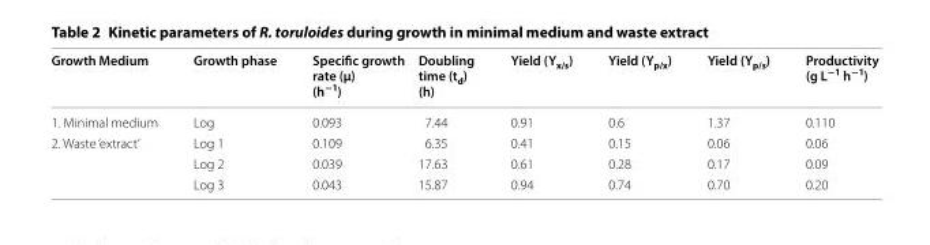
<table><thead><tr><td>Growth Medium</td><td>Growth phase</td><td>Specific growth rate (µ) (h<sup>−1</sup>)</td><td>Doubling time (t<sub>d</sub>) (h)</td><td>Yield (Y<sub>x/s</sub>)</td><td>Yield (Y<sub>p/x</sub>)</td><td>Yield (Y<sub>p/s</sub>)</td><td>Productivity (g L<sup>−1</sup> h<sup>−1</sup>)</td></tr></thead><tbody><tr><td>1. Minimal medium</td><td>Log</td><td>0.093</td><td>7.44</td><td>0.91</td><td>0.6</td><td>1.37</td><td>0.110</td></tr><tr><td rowspan="3">2. Waste ‘extract’</td><td>Log 1</td><td>0.109</td><td>6.35</td><td>0.41</td><td>0.15</td><td>0.06</td><td>0.06</td></tr><tr><td>Log 2</td><td>0.039</td><td>17.63</td><td>0.61</td><td>0.28</td><td>0.17</td><td>0.09</td></tr><tr><td>Log 3</td><td>0.043</td><td>15.87</td><td>0.94</td><td>0.74</td><td>0.70</td><td>0.20</td></tr></tbody></table>